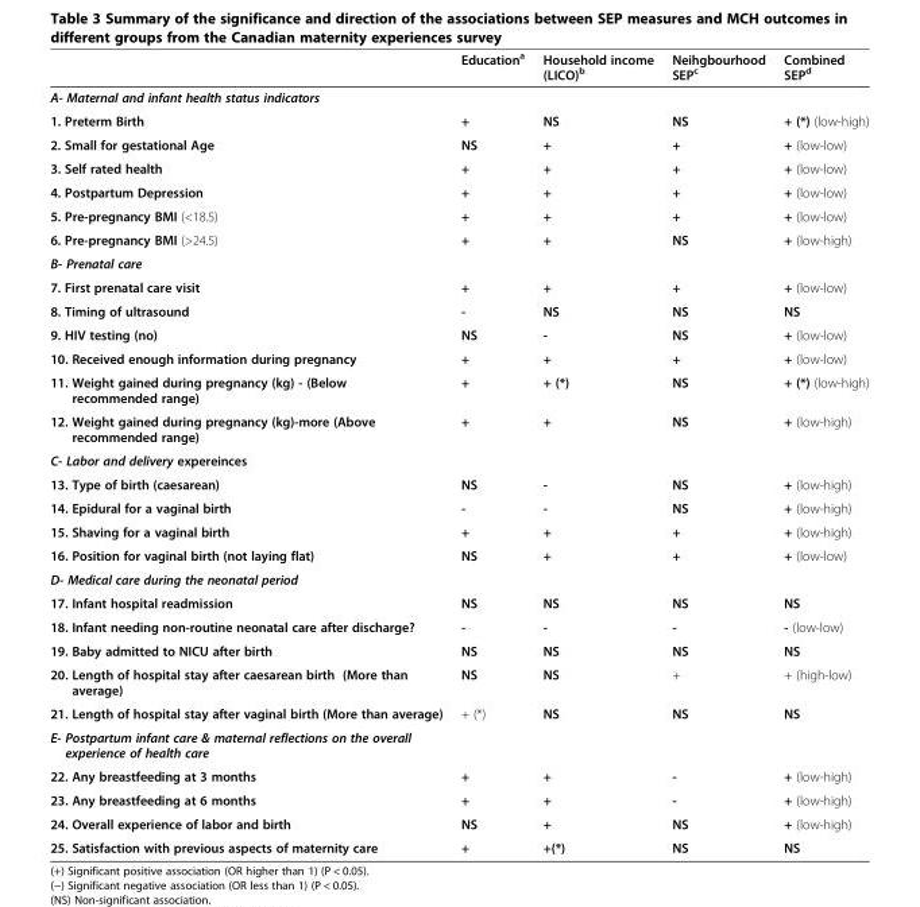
<table><thead><tr><td></td><td>Education<sup>a</sup></td><td>Household income (LICO)<sup>b</sup></td><td>Neihgbourhood SEP<sup>c</sup></td><td>Combined SEP<sup>d</sup></td></tr></thead><tbody><tr><td colspan="5">A- Maternal and infant health status indicators</td></tr><tr><td>1. Preterm Birth</td><td>+</td><td>NS</td><td>NS</td><td>+ (*) (low-high)</td></tr><tr><td>2. Small for gestational Age</td><td>NS</td><td>+</td><td>+</td><td>+ (low-low)</td></tr><tr><td>3. Self rated health</td><td>+</td><td>+</td><td>+</td><td>+ (low-low)</td></tr><tr><td>4. Postpartum Depression</td><td>+</td><td>+</td><td>+</td><td>+ (low-low)</td></tr><tr><td>5. Pre-pregnancy BMI (&lt;18.5)</td><td>+</td><td>+</td><td>+</td><td>+ (low-low)</td></tr><tr><td>6. Pre-pregnancy BMI (&gt;24.5)</td><td>+</td><td>+</td><td>NS</td><td>+ (low-high)</td></tr><tr><td colspan="5">B- Prenatal care</td></tr><tr><td>7. First prenatal care visit</td><td>+</td><td>+</td><td>+</td><td>+ (low-low)</td></tr><tr><td>8. Timing of ultrasound</td><td>-</td><td>NS</td><td>NS</td><td>NS</td></tr><tr><td>9. HIV testing (no)</td><td>NS</td><td>-</td><td>NS</td><td>+ (low-low)</td></tr><tr><td>10. Received enough information during pregnancy</td><td>+</td><td>+</td><td>+</td><td>+ (low-low)</td></tr><tr><td>11. Weight gained during pregnancy (kg) - (Below recommended range)</td><td>+</td><td>+ (*)</td><td>NS</td><td>+ (*) (low-high)</td></tr><tr><td>12. Weight gained during pregnancy (kg)-more (Above recommended range)</td><td>+</td><td>+</td><td>NS</td><td>+ (low-high)</td></tr><tr><td colspan="5">C- Labor and delivery expereinces</td></tr><tr><td>13. Type of birth (caesarean)</td><td>NS</td><td>-</td><td>NS</td><td>+ (low-high)</td></tr><tr><td>14. Epidural for a vaginal birth</td><td>-</td><td>-</td><td>NS</td><td>+ (low-high)</td></tr><tr><td>15. Shaving for a vaginal birth</td><td>+</td><td>+</td><td>+</td><td>+ (low-high)</td></tr><tr><td>16. Position for vaginal birth (not laying flat)</td><td>NS</td><td>+</td><td>+</td><td>+ (low-low)</td></tr><tr><td colspan="5">D- Medical care during the neonatal period</td></tr><tr><td>17. Infant hospital readmission</td><td>NS</td><td>NS</td><td>NS</td><td>NS</td></tr><tr><td>18. Infant needing non-routine neonatal care after discharge?</td><td>-</td><td>-</td><td>-</td><td>- (low-low)</td></tr><tr><td>19. Baby admitted to NICU after birth</td><td>NS</td><td>NS</td><td>NS</td><td>NS</td></tr><tr><td>20. Length of hospital stay after caesarean birth (More than average)</td><td>NS</td><td>NS</td><td>+</td><td>+ (high-low)</td></tr><tr><td>21. Length of hospital stay after vaginal birth (More than average)</td><td>+ (*)</td><td>NS</td><td>NS</td><td>NS</td></tr><tr><td colspan="5">E- Postpartum infant care &amp; maternal reflections on the overall experience of health care</td></tr><tr><td>22. Any breastfeeding at 3 months</td><td>+</td><td>+</td><td>-</td><td>+ (low-high)</td></tr><tr><td>23. Any breastfeeding at 6 months</td><td>+</td><td>+</td><td>-</td><td>+ (low-high)</td></tr><tr><td>24. Overall experience of labor and birth</td><td>NS</td><td>+</td><td>NS</td><td>+ (low-high)</td></tr><tr><td>25. Satisfaction with previous aspects of maternity care</td><td>+</td><td>+(*)</td><td>NS</td><td>NS</td></tr></tbody></table>